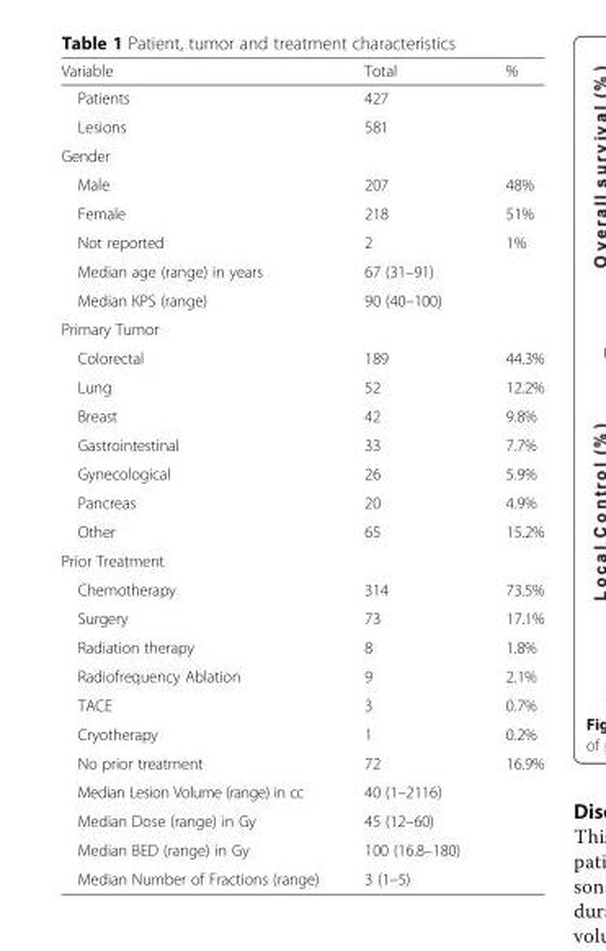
<table><thead><tr><td>Variable</td><td>Total</td><td>%</td></tr></thead><tbody><tr><td>Patients</td><td>427</td><td></td></tr><tr><td>Lesions</td><td>581</td><td></td></tr><tr><td colspan="3">Gender</td></tr><tr><td>Male</td><td>207</td><td>48%</td></tr><tr><td>Female</td><td>218</td><td>51%</td></tr><tr><td>Not reported</td><td>2</td><td>1%</td></tr><tr><td>Median age (range) in years</td><td>67 (31–91)</td><td></td></tr><tr><td>Median KPS (range)</td><td>90 (40–100)</td><td></td></tr><tr><td colspan="3">Primary Tumor</td></tr><tr><td>Colorectal</td><td>189</td><td>44.3%</td></tr><tr><td>Lung</td><td>52</td><td>12.2%</td></tr><tr><td>Breast</td><td>42</td><td>9.8%</td></tr><tr><td>Gastrointestinal</td><td>33</td><td>7.7%</td></tr><tr><td>Gynecological</td><td>26</td><td>5.9%</td></tr><tr><td>Pancreas</td><td>20</td><td>4.9%</td></tr><tr><td>Other</td><td>65</td><td>15.2%</td></tr><tr><td colspan="3">Prior Treatment</td></tr><tr><td>Chemotherapy</td><td>314</td><td>73.5%</td></tr><tr><td>Surgery</td><td>73</td><td>17.1%</td></tr><tr><td>Radiation therapy</td><td>8</td><td>1.8%</td></tr><tr><td>Radiofrequency Ablation</td><td>9</td><td>2.1%</td></tr><tr><td>TACE</td><td>3</td><td>0.7%</td></tr><tr><td>Cryotherapy</td><td>1</td><td>0.2%</td></tr><tr><td>No prior treatment</td><td>72</td><td>16.9%</td></tr><tr><td>Median Lesion Volume (range) in cc</td><td>40 (1–2116)</td><td></td></tr><tr><td>Median Dose (range) in Gy</td><td>45 (12–60)</td><td></td></tr><tr><td>Median BED (range) in Gy</td><td>100 (16.8–180)</td><td></td></tr><tr><td>Median Number of Fractions (range)</td><td>3 (1–5)</td><td></td></tr></tbody></table>